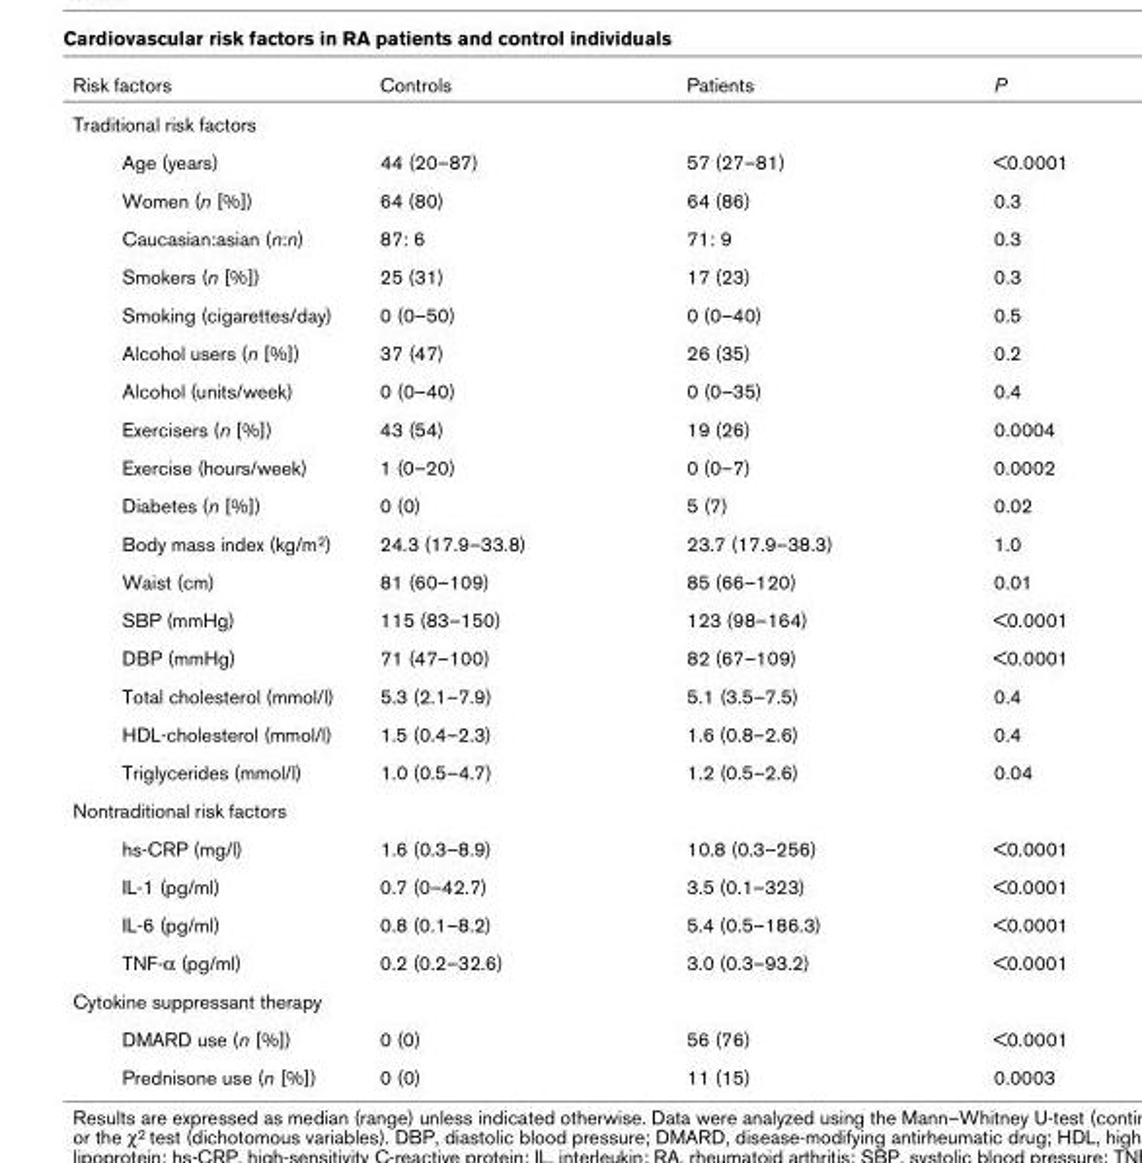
<table><thead><tr><td>Risk factors</td><td>Controls</td><td>Patients</td><td>P</td></tr></thead><tbody><tr><td colspan="4">Traditional risk factors</td></tr><tr><td>Age (years)</td><td>44 (20–87)</td><td>57 (27–81)</td><td>&lt;0.0001</td></tr><tr><td>Women (n [%])</td><td>64 (80)</td><td>64 (86)</td><td>0.3</td></tr><tr><td>Caucasian:asian (n:n)</td><td>87: 6</td><td>71: 9</td><td>0.3</td></tr><tr><td>Smokers (n [%])</td><td>25 (31)</td><td>17 (23)</td><td>0.3</td></tr><tr><td>Smoking (cigarettes/day)</td><td>0 (0–50)</td><td>0 (0–40)</td><td>0.5</td></tr><tr><td>Alcohol users (n [%])</td><td>37 (47)</td><td>26 (35)</td><td>0.2</td></tr><tr><td>Alcohol (units/week)</td><td>0 (0–40)</td><td>0 (0–35)</td><td>0.4</td></tr><tr><td>Exercisers (n [%])</td><td>43 (54)</td><td>19 (26)</td><td>0.0004</td></tr><tr><td>Exercise (hours/week)</td><td>1 (0–20)</td><td>0 (0–7)</td><td>0.0002</td></tr><tr><td>Diabetes (n [%])</td><td>0 (0)</td><td>5 (7)</td><td>0.02</td></tr><tr><td>Body mass index (kg/m2)</td><td>24.3 (17.9–33.8)</td><td>23.7 (17.9–38.3)</td><td>1.0</td></tr><tr><td>Waist (cm)</td><td>81 (60–109)</td><td>85 (66–120)</td><td>0.01</td></tr><tr><td>SBP (mmHg)</td><td>115 (83–150)</td><td>123 (98–164)</td><td>&lt;0.0001</td></tr><tr><td>DBP (mmHg)</td><td>71 (47–100)</td><td>82 (67–109)</td><td>&lt;0.0001</td></tr><tr><td>Total cholesterol (mmol/l)</td><td>5.3 (2.1–7.9)</td><td>5.1 (3.5–7.5)</td><td>0.4</td></tr><tr><td>HDL-cholesterol (mmol/l)</td><td>1.5 (0.4–2.3)</td><td>1.6 (0.8–2.6)</td><td>0.4</td></tr><tr><td>Triglycerides (mmol/l)</td><td>1.0 (0.5–4.7)</td><td>1.2 (0.5–2.6)</td><td>0.04</td></tr><tr><td colspan="4">Nontraditional risk factors</td></tr><tr><td>hs-CRP (mg/l)</td><td>1.6 (0.3–8.9)</td><td>10.8 (0.3–256)</td><td>&lt;0.0001</td></tr><tr><td>IL-1 (pg/ml)</td><td>0.7 (0–42.7)</td><td>3.5 (0.1–323)</td><td>&lt;0.0001</td></tr><tr><td>IL-6 (pg/ml)</td><td>0.8 (0.1–8.2)</td><td>5.4 (0.5–186.3)</td><td>&lt;0.0001</td></tr><tr><td>TNF-α (pg/ml)</td><td>0.2 (0.2–32.6)</td><td>3.0 (0.3–93.2)</td><td>&lt;0.0001</td></tr><tr><td colspan="4">Cytokine suppressant therapy</td></tr><tr><td>DMARD use (n [%])</td><td>0 (0)</td><td>56 (76)</td><td>&lt;0.0001</td></tr><tr><td>Prednisone use (n [%])</td><td>0 (0)</td><td>11 (15)</td><td>0.0003</td></tr></tbody></table>